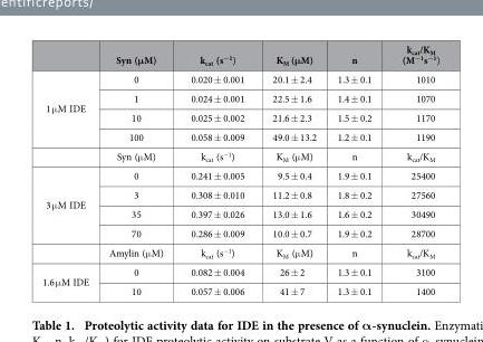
<table><thead><tr><td></td><td>Syn (μM)</td><td>k<sub>cat</sub> (s<sup>−1</sup>)</td><td>K<sub>M</sub> (μM)</td><td>n</td><td>k<sub>cat</sub>/K<sub>M</sub> (M<sup>−1</sup>s<sup>−1</sup>)</td></tr></thead><tbody><tr><td rowspan="5">1 μ M IDE</td><td>0</td><td>0.020 ± 0.001</td><td>20.1 ± 2.4</td><td>1.3 ± 0.1</td><td>1010</td></tr><tr><td>1</td><td>0.024 ± 0.001</td><td>22.5 ± 1.6</td><td>1.4 ± 0.1</td><td>1070</td></tr><tr><td>10</td><td>0.025 ± 0.002</td><td>21.6 ± 2.3</td><td>1.5 ± 0.2</td><td>1170</td></tr><tr><td>100</td><td>0.058 ± 0.009</td><td>49.0 ± 13.2</td><td>1.2 ± 0.1</td><td>1190</td></tr><tr><td>Syn (μ M)</td><td>k<sub>cat</sub> (s<sup>−1</sup>)</td><td>K<sub>M</sub> (μ M)</td><td>n</td><td>k<sub>cat</sub>/K<sub>M</sub></td></tr><tr><td rowspan="5">3 μ M IDE</td><td>0</td><td>0.241 ± 0.005</td><td>9.5 ± 0.4</td><td>1.9 ± 0.1</td><td>25400</td></tr><tr><td>3</td><td>0.308 ± 0.010</td><td>11.2 ± 0.8</td><td>1.8 ± 0.2</td><td>27560</td></tr><tr><td>35</td><td>0.397 ± 0.026</td><td>13.0 ± 1.6</td><td>1.6 ± 0.2</td><td>30490</td></tr><tr><td>70</td><td>0.286 ± 0.009</td><td>10.0 ± 0.7</td><td>1.9 ± 0.2</td><td>28700</td></tr><tr><td>Amylin (μ M)</td><td>k<sub>cat</sub> (s<sup>−1</sup>)</td><td>K<sub>M</sub> (μ M)</td><td>n</td><td>k<sub>cat</sub>/K<sub>M</sub></td></tr><tr><td rowspan="2">1.6 μ M IDE</td><td>0</td><td>0.082 ± 0.004</td><td>26 ± 2</td><td>1.3 ± 0.1</td><td>3100</td></tr><tr><td>10</td><td>0.057 ± 0.006</td><td>41 ± 7</td><td>1.3 ± 0.1</td><td>1400</td></tr></tbody></table>